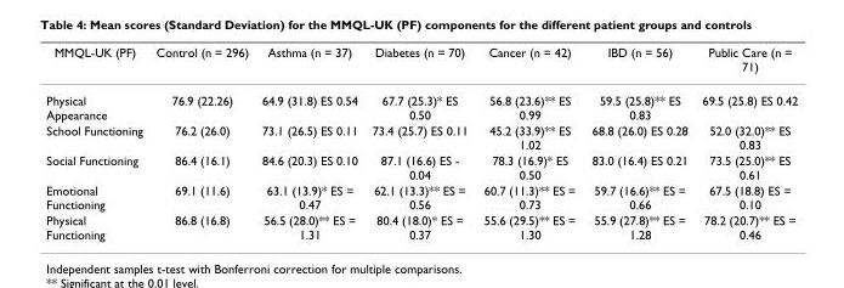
<table><thead><tr><td>MMQL-UK (PF)</td><td>Control (n = 296)</td><td>Asthma (n = 37)</td><td>Diabetes (n = 70)</td><td>Cancer (n = 42)</td><td>IBD (n = 56)</td><td>Public Care (n = 71)</td></tr></thead><tbody><tr><td>Physical Appearance</td><td>76.9 (22.26)</td><td>64.9 (31.8) ES 0.54</td><td>67.7 (25.3)* ES 0.50</td><td>56.8 (23.6)** ES 0.99</td><td>59.5 (25.8)** ES 0.83</td><td>69.5 (25.8) ES 0.42</td></tr><tr><td>School Functioning</td><td>76.2 (26.0)</td><td>73.1 (26.5) ES 0.11</td><td>73.4 (25.7) ES 0.11</td><td>45.2 (33.9)** ES 1.02</td><td>68.8 (26.0) ES 0.28</td><td>52.0 (32.0)** ES 0.83</td></tr><tr><td>Social Functioning</td><td>86.4 (16.1)</td><td>84.6 (20.3) ES 0.10</td><td>87.1 (16.6) ES - 0.04</td><td>78.3 (16.9)* ES 0.50</td><td>83.0 (16.4) ES 0.21</td><td>73.5 (25.0)** ES 0.61</td></tr><tr><td>Emotional Functioning</td><td>69.1 (11.6)</td><td>63.1 (13.9)* ES = 0.47</td><td>62.1 (13.3)** ES = 0.56</td><td>60.7 (11.3)** ES = 0.73</td><td>59.7 (16.6)** ES = 0.66</td><td>67.5 (18.8) ES = 0.10</td></tr><tr><td>Physical Functioning</td><td>86.8 (16.8)</td><td>56.5 (28.0)** ES = 1.31</td><td>80.4 (18.0)* ES = 0.37</td><td>55.6 (29.5)** ES = 1.30</td><td>55.9 (27.8)** ES = 1.28</td><td>78.2 (20.7)** ES = 0.46</td></tr></tbody></table>